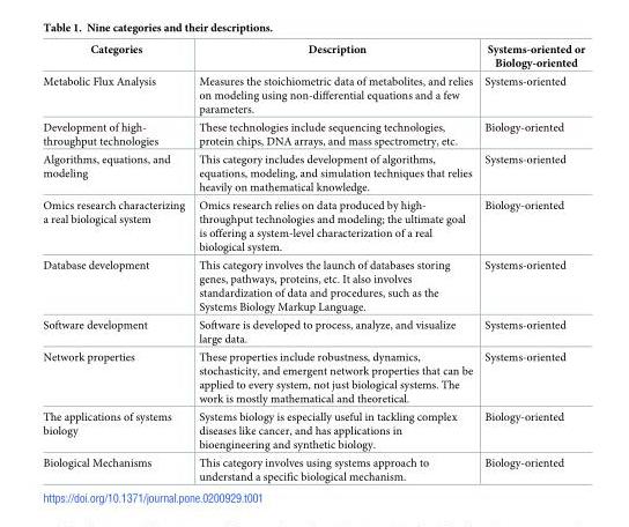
<table><thead><tr><td>Categories</td><td>Description</td><td>Systems-oriented or Biology-oriented</td></tr></thead><tbody><tr><td>Metabolic Flux Analysis</td><td>Measures the stoichiometric data of metabolites, and relies on modeling using non-differential equations and a few parameters.</td><td>Systems-oriented</td></tr><tr><td>Development of high- throughput technologies</td><td>These technologies include sequencing technologies, protein chips, DNA arrays, and mass spectrometry, etc.</td><td>Biology-oriented</td></tr><tr><td>Algorithms, equations, and modeling</td><td>This category includes development of algorithms, equations, modeling, and simulation techniques that relies heavily on mathematical knowledge.</td><td>Systems-oriented</td></tr><tr><td>Omics research characterizing a real biological system</td><td>Omics research relies on data produced by high- throughput technologies and modeling; the ultimate goal is offering a system-level characterization of a real biological system.</td><td>Biology-oriented</td></tr><tr><td>Database development</td><td>This category involves the launch of databases storing genes, pathways, proteins, etc. It also involves standardization of data and procedures, such as the Systems Biology Markup Language.</td><td>Systems-oriented</td></tr><tr><td>Software development</td><td>Software is developed to process, analyze, and visualize large data.</td><td>Systems-oriented</td></tr><tr><td>Network properties</td><td>These properties include robustness, dynamics, stochasticity, and emergent network properties that can be applied to every system, not just biological systems. The work is mostly mathematical and theoretical.</td><td>Systems-oriented</td></tr><tr><td>The applications of systems biology</td><td>Systems biology is especially useful in tackling complex diseases like cancer, and has applications in bioengineering and synthetic biology.</td><td>Biology-oriented</td></tr><tr><td>Biological Mechanisms</td><td>This category involves using systems approach to understand a specific biological mechanism.</td><td>Biology-oriented</td></tr></tbody></table>